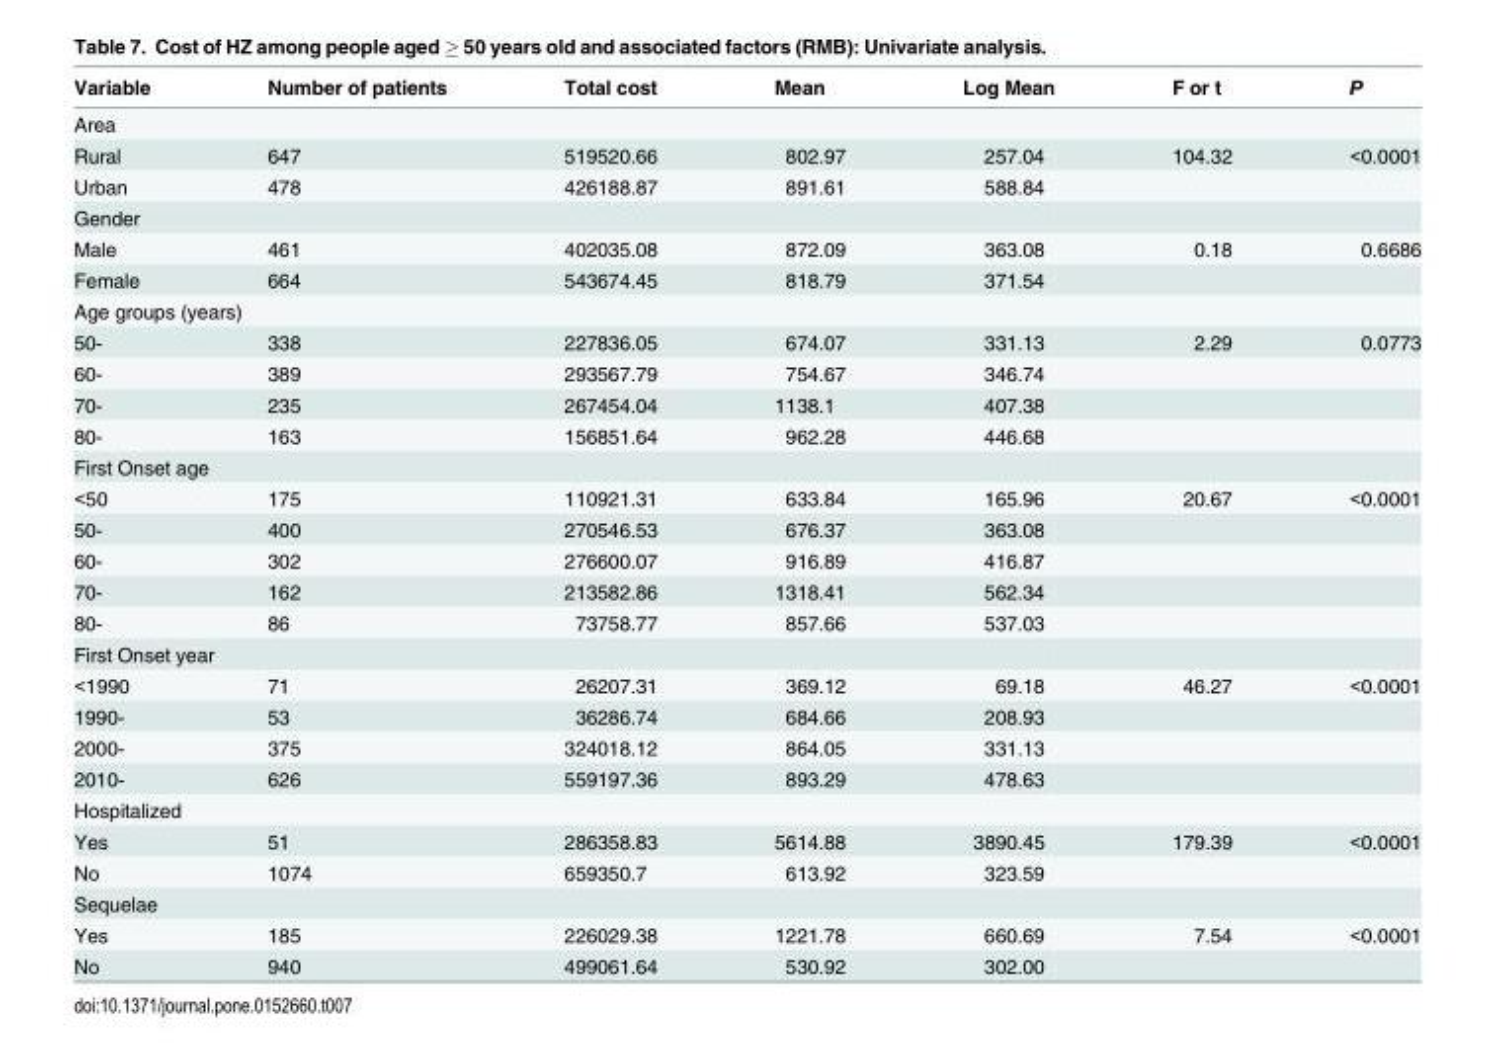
<table><thead><tr><td>Variable</td><td>Number of patients</td><td>Total cost</td><td>Mean</td><td>Log Mean</td><td>F or t</td><td>P</td></tr></thead><tbody><tr><td colspan="7">Area</td></tr><tr><td>Rural</td><td>647</td><td>519520.66</td><td>802.97</td><td>257.04</td><td>104.32</td><td>&lt;0.0001</td></tr><tr><td>Urban</td><td>478</td><td>426188.87</td><td>891.61</td><td>588.84</td><td></td><td></td></tr><tr><td colspan="7">Gender</td></tr><tr><td>Male</td><td>461</td><td>402035.08</td><td>872.09</td><td>363.08</td><td>0.18</td><td>0.6686</td></tr><tr><td>Female</td><td>664</td><td>543674.45</td><td>818.79</td><td>371.54</td><td></td><td></td></tr><tr><td colspan="7">Age groups (years)</td></tr><tr><td>50-</td><td>338</td><td>227836.05</td><td>674.07</td><td>331.13</td><td>2.29</td><td>0.0773</td></tr><tr><td>60-</td><td>389</td><td>293567.79</td><td>754.67</td><td>346.74</td><td></td><td></td></tr><tr><td>70-</td><td>235</td><td>267454.04</td><td>1138.1</td><td>407.38</td><td></td><td></td></tr><tr><td>80-</td><td>163</td><td>156851.64</td><td>962.28</td><td>446.68</td><td></td><td></td></tr><tr><td colspan="7">First Onset age</td></tr><tr><td>&lt;50</td><td>175</td><td>110921.31</td><td>633.84</td><td>165.96</td><td>20.67</td><td>&lt;0.0001</td></tr><tr><td>50-</td><td>400</td><td>270546.53</td><td>676.37</td><td>363.08</td><td></td><td></td></tr><tr><td>60-</td><td>302</td><td>276600.07</td><td>916.89</td><td>416.87</td><td></td><td></td></tr><tr><td>70-</td><td>162</td><td>213582.86</td><td>1318.41</td><td>562.34</td><td></td><td></td></tr><tr><td>80-</td><td>86</td><td>73758.77</td><td>857.66</td><td>537.03</td><td></td><td></td></tr><tr><td colspan="7">First Onset year</td></tr><tr><td>&lt;1990</td><td>71</td><td>26207.31</td><td>369.12</td><td>69.18</td><td>46.27</td><td>&lt;0.0001</td></tr><tr><td>1990-</td><td>53</td><td>36286.74</td><td>684.66</td><td>208.93</td><td></td><td></td></tr><tr><td>2000-</td><td>375</td><td>324018.12</td><td>864.05</td><td>331.13</td><td></td><td></td></tr><tr><td>2010-</td><td>626</td><td>559197.36</td><td>893.29</td><td>478.63</td><td></td><td></td></tr><tr><td colspan="7">Hospitalized</td></tr><tr><td>Yes</td><td>51</td><td>286358.83</td><td>5614.88</td><td>3890.45</td><td>179.39</td><td>&lt;0.0001</td></tr><tr><td>No</td><td>1074</td><td>659350.7</td><td>613.92</td><td>323.59</td><td></td><td></td></tr><tr><td colspan="7">Sequelae</td></tr><tr><td>Yes</td><td>185</td><td>226029.38</td><td>1221.78</td><td>660.69</td><td>7.54</td><td>&lt;0.0001</td></tr><tr><td>No</td><td>940</td><td>499061.64</td><td>530.92</td><td>302.00</td><td></td><td></td></tr></tbody></table>